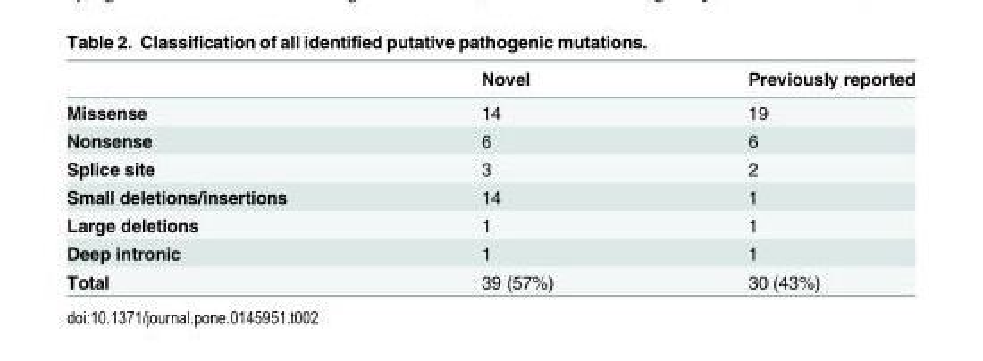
<table><thead><tr><td></td><td>Novel</td><td>Previously reported</td></tr></thead><tbody><tr><td>Missense</td><td>14</td><td>19</td></tr><tr><td>Nonsense</td><td>6</td><td>6</td></tr><tr><td>Splice site</td><td>3</td><td>2</td></tr><tr><td>Small deletions/insertions</td><td>14</td><td>1</td></tr><tr><td>Large deletions</td><td>1</td><td>1</td></tr><tr><td>Deep intronic</td><td>1</td><td>1</td></tr><tr><td>Total</td><td>39 (57%)</td><td>30 (43%)</td></tr></tbody></table>